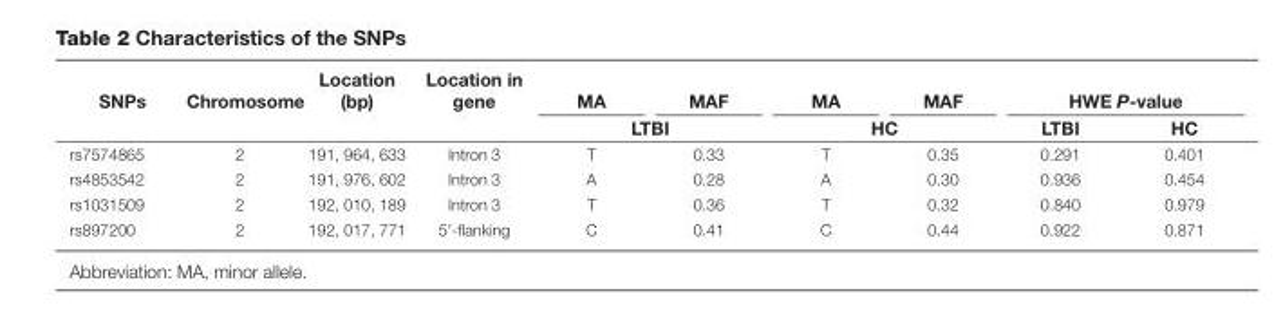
<table><thead><tr><td rowspan="2">SNPs</td><td rowspan="2">Chromosome</td><td rowspan="2">Location (bp)</td><td rowspan="2">Location in gene</td><td>MA</td><td>MAF</td><td>MA</td><td>MAF</td><td colspan="2">HWE P-value</td></tr><tr><td colspan="2">LTBI</td><td colspan="2">HC</td><td>LTBI</td><td>HC</td></tr></thead><tbody><tr><td>rs7574865</td><td>2</td><td>191, 964, 633</td><td>Intron 3</td><td>T</td><td>0.33</td><td>T</td><td>0.35</td><td>0.291</td><td>0.401</td></tr><tr><td>rs4853542</td><td>2</td><td>191, 976, 602</td><td>Intron 3</td><td>A</td><td>0.28</td><td>A</td><td>0.30</td><td>0.936</td><td>0.454</td></tr><tr><td>rs1031509</td><td>2</td><td>192, 010, 189</td><td>Intron 3</td><td>T</td><td>0.36</td><td>T</td><td>0.32</td><td>0.840</td><td>0.979</td></tr><tr><td>rs897200</td><td>2</td><td>192, 017, 771</td><td>5′-flanking</td><td>C</td><td>0.41</td><td>C</td><td>0.44</td><td>0.922</td><td>0.871</td></tr></tbody></table>